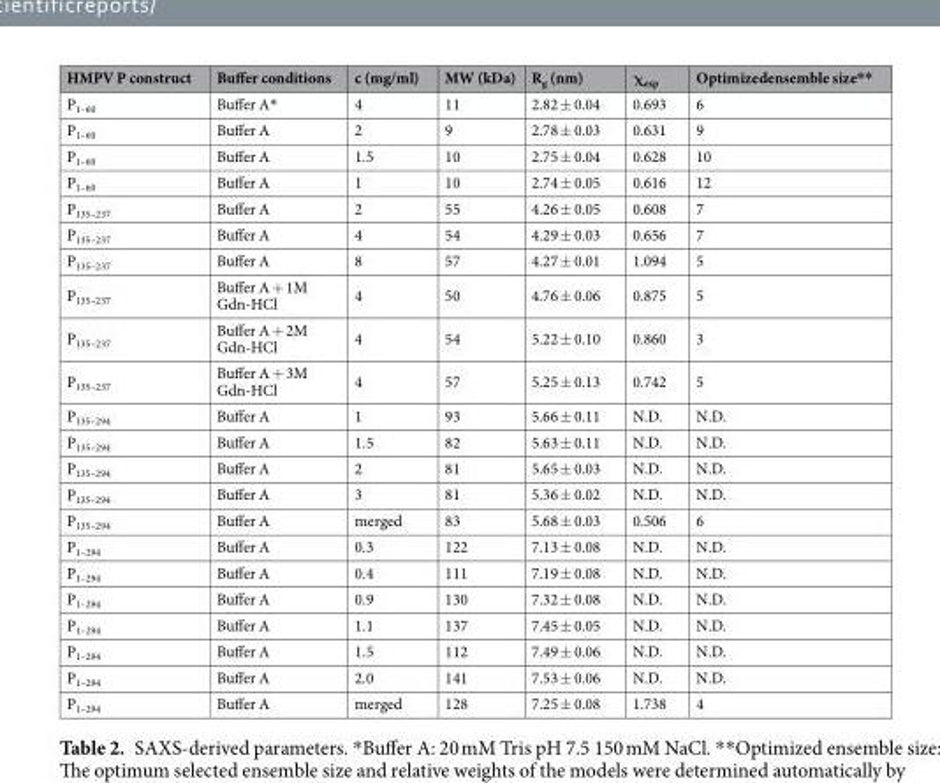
<table><thead><tr><td>HMPV P construct</td><td>Buffer conditions</td><td>c (mg/ml)</td><td>MW (kDa)</td><td>R<sub>g</sub> (nm)</td><td>χ<sub>exp</sub></td><td>Optimizedensemble size**</td></tr></thead><tbody><tr><td>P<sub>1–60</sub></td><td>Buffer A*</td><td>4</td><td>11</td><td>2.82 ± 0.04</td><td>0.693</td><td>6</td></tr><tr><td>P<sub>1–60</sub></td><td>Buffer A</td><td>2</td><td>9</td><td>2.78 ± 0.03</td><td>0.631</td><td>9</td></tr><tr><td>P<sub>1–60</sub></td><td>Buffer A</td><td>1.5</td><td>10</td><td>2.75 ± 0.04</td><td>0.628</td><td>10</td></tr><tr><td>P<sub>1–60</sub></td><td>Buffer A</td><td>1</td><td>10</td><td>2.74 ± 0.05</td><td>0.616</td><td>12</td></tr><tr><td>P<sub>135–237</sub></td><td>Buffer A</td><td>2</td><td>55</td><td>4.26 ± 0.05</td><td>0.608</td><td>7</td></tr><tr><td>P<sub>135–237</sub></td><td>Buffer A</td><td>4</td><td>54</td><td>4.29 ± 0.03</td><td>0.656</td><td>7</td></tr><tr><td>P<sub>135–237</sub></td><td>Buffer A</td><td>8</td><td>57</td><td>4.27 ± 0.01</td><td>1.094</td><td>5</td></tr><tr><td>P<sub>135–237</sub></td><td>Buffer A + 1M Gdn-HCl</td><td>4</td><td>50</td><td>4.76 ± 0.06</td><td>0.875</td><td>5</td></tr><tr><td>P<sub>135–237</sub></td><td>Buffer A + 2M Gdn-HCl</td><td>4</td><td>54</td><td>5.22 ± 0.10</td><td>0.860</td><td>3</td></tr><tr><td>P<sub>135–237</sub></td><td>Buffer A + 3M Gdn-HCl</td><td>4</td><td>57</td><td>5.25 ± 0.13</td><td>0.742</td><td>5</td></tr><tr><td>P<sub>135–294</sub></td><td>Buffer A</td><td>1</td><td>93</td><td>5.66 ± 0.11</td><td>N.D.</td><td>N.D.</td></tr><tr><td>P<sub>135–294</sub></td><td>Buffer A</td><td>1.5</td><td>82</td><td>5.63 ± 0.11</td><td>N.D.</td><td>N.D.</td></tr><tr><td>P<sub>135–294</sub></td><td>Buffer A</td><td>2</td><td>81</td><td>5.65 ± 0.03</td><td>N.D.</td><td>N.D.</td></tr><tr><td>P<sub>135–294</sub></td><td>Buffer A</td><td>3</td><td>81</td><td>5.36 ± 0.02</td><td>N.D.</td><td>N.D.</td></tr><tr><td>P<sub>135–294</sub></td><td>Buffer A</td><td>merged</td><td>83</td><td>5.68 ± 0.03</td><td>0.506</td><td>6</td></tr><tr><td>P<sub>1–294</sub></td><td>Buffer A</td><td>0.3</td><td>122</td><td>7.13 ± 0.08</td><td>N.D.</td><td>N.D.</td></tr><tr><td>P<sub>1–294</sub></td><td>Buffer A</td><td>0.4</td><td>111</td><td>7.19 ± 0.08</td><td>N.D.</td><td>N.D.</td></tr><tr><td>P<sub>1–294</sub></td><td>Buffer A</td><td>0.9</td><td>130</td><td>7.32 ± 0.08</td><td>N.D.</td><td>N.D.</td></tr><tr><td>P<sub>1–294</sub></td><td>Buffer A</td><td>1.1</td><td>137</td><td>7.45 ± 0.05</td><td>N.D.</td><td>N.D.</td></tr><tr><td>P<sub>1–294</sub></td><td>Buffer A</td><td>1.5</td><td>112</td><td>7.49 ± 0.06</td><td>N.D.</td><td>N.D.</td></tr><tr><td>P<sub>1–294</sub></td><td>Buffer A</td><td>2.0</td><td>141</td><td>7.53 ± 0.06</td><td>N.D.</td><td>N.D.</td></tr><tr><td>P<sub>1–294</sub></td><td>Buffer A</td><td>merged</td><td>128</td><td>7.25 ± 0.08</td><td>1.738</td><td>4</td></tr></tbody></table>